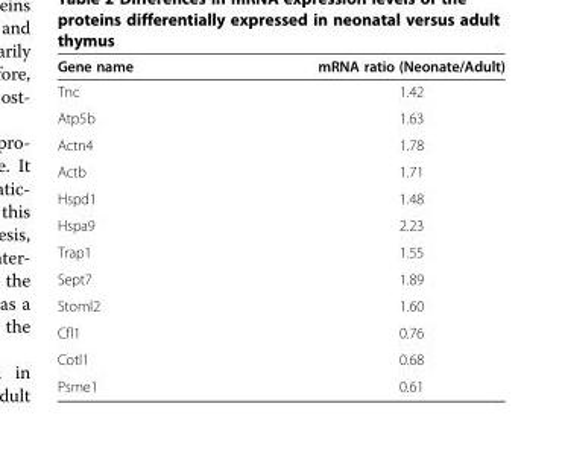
<table><thead><tr><td>Gene name</td><td>mRNA ratio (Neonate/Adult)</td></tr></thead><tbody><tr><td>Tnc</td><td>1.42</td></tr><tr><td>Atp5b</td><td>1.63</td></tr><tr><td>Actn4</td><td>1.78</td></tr><tr><td>Actb</td><td>1.71</td></tr><tr><td>Hspd1</td><td>1.48</td></tr><tr><td>Hspa9</td><td>2.23</td></tr><tr><td>Trap1</td><td>1.55</td></tr><tr><td>Sept7</td><td>1.89</td></tr><tr><td>Stoml2</td><td>1.60</td></tr><tr><td>Cfl1</td><td>0.76</td></tr><tr><td>Cotl1</td><td>0.68</td></tr><tr><td>Psme1</td><td>0.61</td></tr></tbody></table>